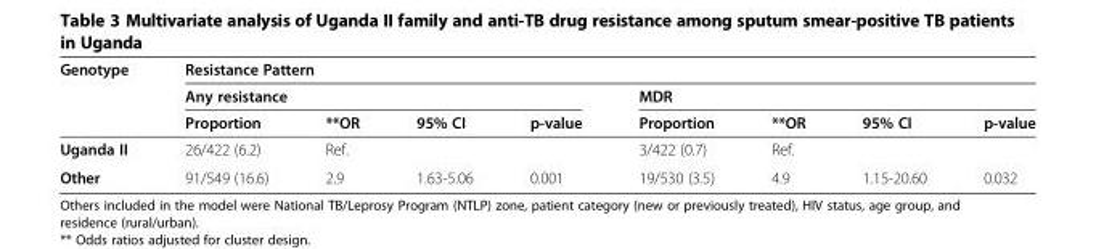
<table><thead><tr><td rowspan="3">Genotype</td><td colspan="8">Resistance Pattern</td></tr><tr><td colspan="4">Any resistance</td><td colspan="4">MDR</td></tr><tr><td>Proportion</td><td>**OR</td><td>95% CI</td><td>p-value</td><td>Proportion</td><td>**OR</td><td>95% CI</td><td>p-value</td></tr></thead><tbody><tr><td>Uganda II</td><td>26/422 (6.2)</td><td>Ref.</td><td></td><td></td><td>3/422 (0.7)</td><td>Ref.</td><td></td><td></td></tr><tr><td>Other</td><td>91/549 (16.6)</td><td>2.9</td><td>1.63-5.06</td><td>0.001</td><td>19/530 (3.5)</td><td>4.9</td><td>1.15-20.60</td><td>0.032</td></tr></tbody></table>